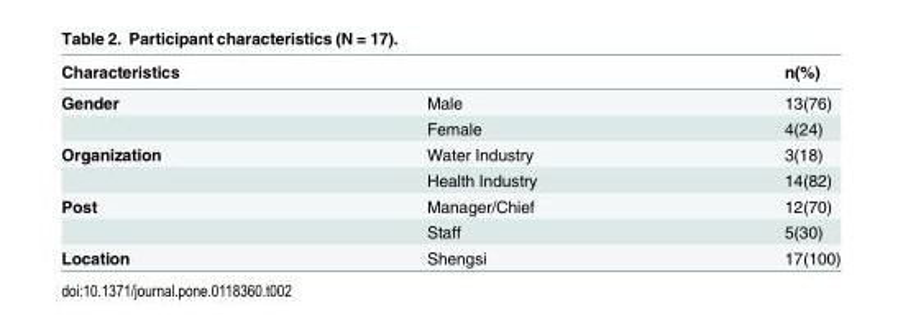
<table><thead><tr><td>Characteristics</td><td></td><td>n(%)</td></tr></thead><tbody><tr><td rowspan="2">Gender</td><td>Male</td><td>13(76)</td></tr><tr><td>Female</td><td>4(24)</td></tr><tr><td rowspan="2">Organization</td><td>Water Industry</td><td>3(18)</td></tr><tr><td>Health Industry</td><td>14(82)</td></tr><tr><td rowspan="2">Post</td><td>Manager/Chief</td><td>12(70)</td></tr><tr><td>Staff</td><td>5(30)</td></tr><tr><td>Location</td><td>Shengsi</td><td>17(100)</td></tr></tbody></table>